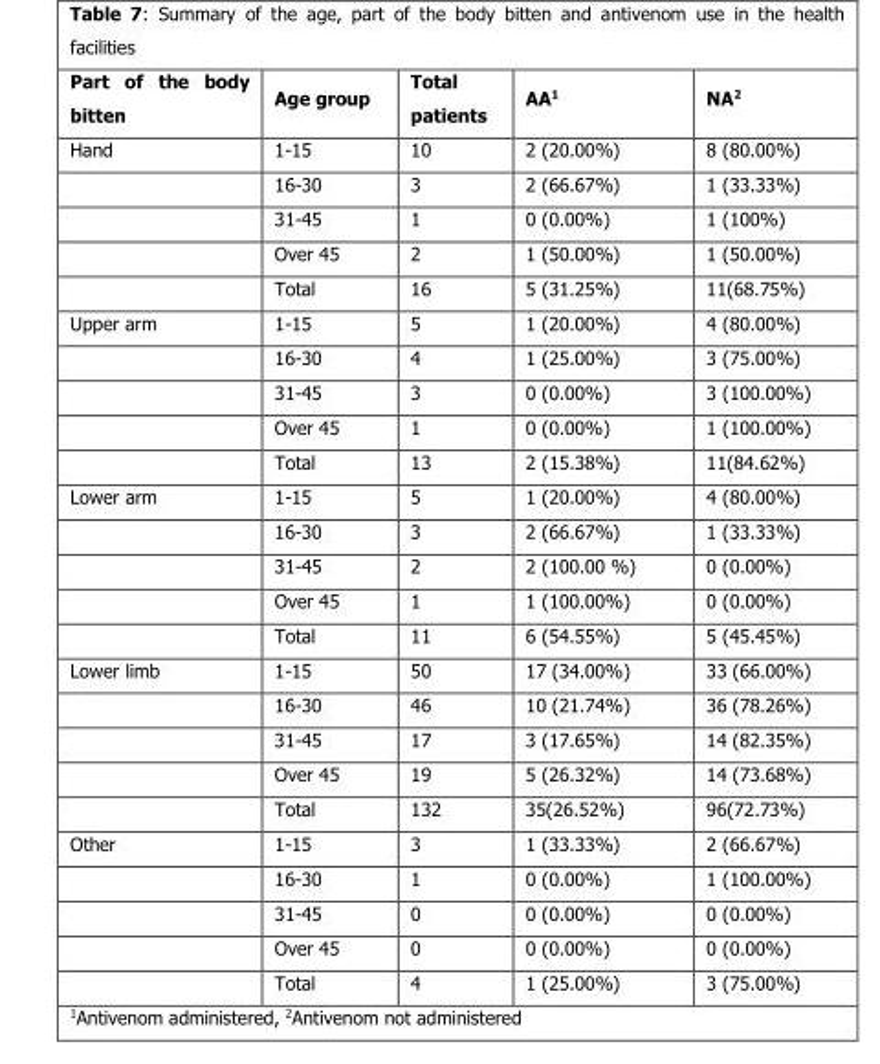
<table><thead><tr><td>Part of the body bitten</td><td>Age group</td><td>Total patients</td><td>AA<sup>1</sup></td><td>NA<sup>2</sup></td></tr></thead><tbody><tr><td rowspan="5">Hand</td><td>1-15</td><td>10</td><td>2 (20.00%)</td><td>8 (80.00%)</td></tr><tr><td>16-30</td><td>3</td><td>2 (66.67%)</td><td>1 (33.33%)</td></tr><tr><td>31-45</td><td>1</td><td>0 (0.00%)</td><td>1 (100%)</td></tr><tr><td>Over 45</td><td>2</td><td>1 (50.00%)</td><td>1 (50.00%)</td></tr><tr><td>Total</td><td>16</td><td>5 (31.25%)</td><td>11(68.75%)</td></tr><tr><td rowspan="5">Upper arm</td><td>1-15</td><td>5</td><td>1 (20.00%)</td><td>4 (80.00%)</td></tr><tr><td>16-30</td><td>4</td><td>1 (25.00%)</td><td>3 (75.00%)</td></tr><tr><td>31-45</td><td>3</td><td>0 (0.00%)</td><td>3 (100.00%)</td></tr><tr><td>Over 45</td><td>1</td><td>0 (0.00%)</td><td>1 (100.00%)</td></tr><tr><td>Total</td><td>13</td><td>2 (15.38%)</td><td>11(84.62%)</td></tr><tr><td rowspan="5">Lower arm</td><td>1-15</td><td>5</td><td>1 (20.00%)</td><td>4 (80.00%)</td></tr><tr><td>16-30</td><td>3</td><td>2 (66.67%)</td><td>1 (33.33%)</td></tr><tr><td>31-45</td><td>2</td><td>2 (100.00 %)</td><td>0 (0.00%)</td></tr><tr><td>Over 45</td><td>1</td><td>1 (100.00%)</td><td>0 (0.00%)</td></tr><tr><td>Total</td><td>11</td><td>6 (54.55%)</td><td>5 (45.45%)</td></tr><tr><td rowspan="5">Lower limb</td><td>1-15</td><td>50</td><td>17 (34.00%)</td><td>33 (66.00%)</td></tr><tr><td>16-30</td><td>46</td><td>10 (21.74%)</td><td>36 (78.26%)</td></tr><tr><td>31-45</td><td>17</td><td>3 (17.65%)</td><td>14 (82.35%)</td></tr><tr><td>Over 45</td><td>19</td><td>5 (26.32%)</td><td>14 (73.68%)</td></tr><tr><td>Total</td><td>132</td><td>35(26.52%)</td><td>96(72.73%)</td></tr><tr><td rowspan="5">Other</td><td>1-15</td><td>3</td><td>1 (33.33%)</td><td>2 (66.67%)</td></tr><tr><td>16-30</td><td>1</td><td>0 (0.00%)</td><td>1 (100.00%)</td></tr><tr><td>31-45</td><td>0</td><td>0 (0.00%)</td><td>0 (0.00%)</td></tr><tr><td>Over 45</td><td>0</td><td>0 (0.00%)</td><td>0 (0.00%)</td></tr><tr><td>Total</td><td>4</td><td>1 (25.00%)</td><td>3 (75.00%)</td></tr></tbody></table>